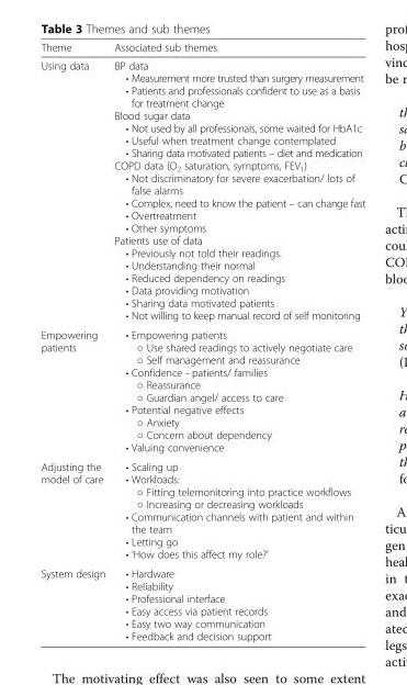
<table><thead><tr><td>Theme</td><td>Associated sub themes</td></tr></thead><tbody><tr><td>Using data</td><td>BP data • Measurement more trusted than surgery measurement • Patients and professionals confident to use as a basis for treatment change Blood sugar data • Not used by all professionals, some waited for HbA1c • Useful when treatment change contemplated • Sharing data motivated patients – diet and medication COPD data (O<sub>2</sub> saturation, symptoms, FEV<sub>1</sub>) • Not discriminatory for severe exacerbation/ lots of false alarms • Complex, need to know the patient – can change fast • Overtreatment • Other symptoms Patients use of data • Previously not told their readings. • Understanding their normal • Reduced dependency on readings • Data providing motivation • Sharing data motivated patients • Not willing to keep manual record of self monitoring</td></tr><tr><td>Empowering patients</td><td>• Empowering patients ○ Use shared readings to actively negotiate care ○ Self management and reassurance • Confidence - patients/ families ○ Reassurance ○ Guardian angel/ access to care • Potential negative effects ○ Anxiety ○ Concern about dependency • Valuing convenience</td></tr><tr><td>Adjusting the model of care</td><td>• Scaling up • Workloads: ○ Fitting telemonitoring into practice workflows ○ Increasing or decreasing workloads • Communication channels with patient and within the team • Letting go • ‘How does this affect my role?’</td></tr><tr><td>System design</td><td>• Hardware • Reliability • Professional interface • Easy access via patient records • Easy two way communication • Feedback and decision support</td></tr></tbody></table>